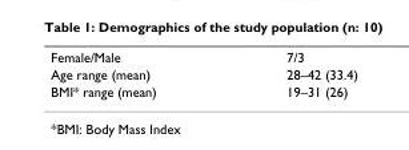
<table><tbody><tr><td>Female/Male</td><td>7/3</td></tr><tr><td>Age range (mean)</td><td>28–42 (33.4)</td></tr><tr><td>BMI* range (mean)</td><td>19–31 (26)</td></tr></tbody></table>